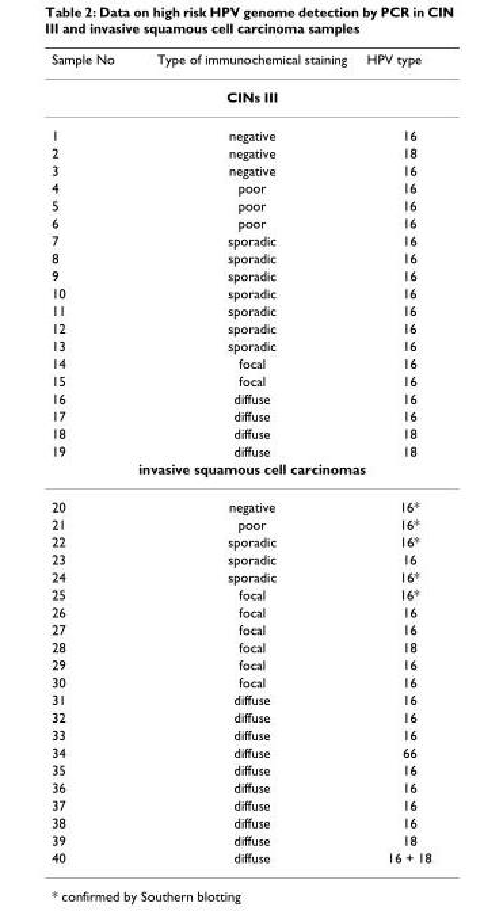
<table><thead><tr><td>Sample No</td><td>Type of immunochemical staining</td><td>HPV type</td></tr></thead><tbody><tr><td colspan="3">CINs III</td></tr><tr><td>1</td><td>negative</td><td>16</td></tr><tr><td>2</td><td>negative</td><td>18</td></tr><tr><td>3</td><td>negative</td><td>16</td></tr><tr><td>4</td><td>poor</td><td>16</td></tr><tr><td>5</td><td>poor</td><td>16</td></tr><tr><td>6</td><td>poor</td><td>16</td></tr><tr><td>7</td><td>sporadic</td><td>16</td></tr><tr><td>8</td><td>sporadic</td><td>16</td></tr><tr><td>9</td><td>sporadic</td><td>16</td></tr><tr><td>10</td><td>sporadic</td><td>16</td></tr><tr><td>11</td><td>sporadic</td><td>16</td></tr><tr><td>12</td><td>sporadic</td><td>16</td></tr><tr><td>13</td><td>sporadic</td><td>16</td></tr><tr><td>14</td><td>focal</td><td>16</td></tr><tr><td>15</td><td>focal</td><td>16</td></tr><tr><td>16</td><td>diffuse</td><td>16</td></tr><tr><td>17</td><td>diffuse</td><td>16</td></tr><tr><td>18</td><td>diffuse</td><td>18</td></tr><tr><td>19</td><td>diffuse</td><td>18</td></tr><tr><td colspan="3">invasive squamous cell carcinomas</td></tr><tr><td>20</td><td>negative</td><td>16*</td></tr><tr><td>21</td><td>poor</td><td>16*</td></tr><tr><td>22</td><td>sporadic</td><td>16*</td></tr><tr><td>23</td><td>sporadic</td><td>16</td></tr><tr><td>24</td><td>sporadic</td><td>16*</td></tr><tr><td>25</td><td>focal</td><td>16*</td></tr><tr><td>26</td><td>focal</td><td>16</td></tr><tr><td>27</td><td>focal</td><td>16</td></tr><tr><td>28</td><td>focal</td><td>18</td></tr><tr><td>29</td><td>focal</td><td>16</td></tr><tr><td>30</td><td>focal</td><td>16</td></tr><tr><td>31</td><td>diffuse</td><td>16</td></tr><tr><td>32</td><td>diffuse</td><td>16</td></tr><tr><td>33</td><td>diffuse</td><td>16</td></tr><tr><td>34</td><td>diffuse</td><td>66</td></tr><tr><td>35</td><td>diffuse</td><td>16</td></tr><tr><td>36</td><td>diffuse</td><td>16</td></tr><tr><td>37</td><td>diffuse</td><td>16</td></tr><tr><td>38</td><td>diffuse</td><td>16</td></tr><tr><td>39</td><td>diffuse</td><td>18</td></tr><tr><td>40</td><td>diffuse</td><td>16 + 18</td></tr></tbody></table>